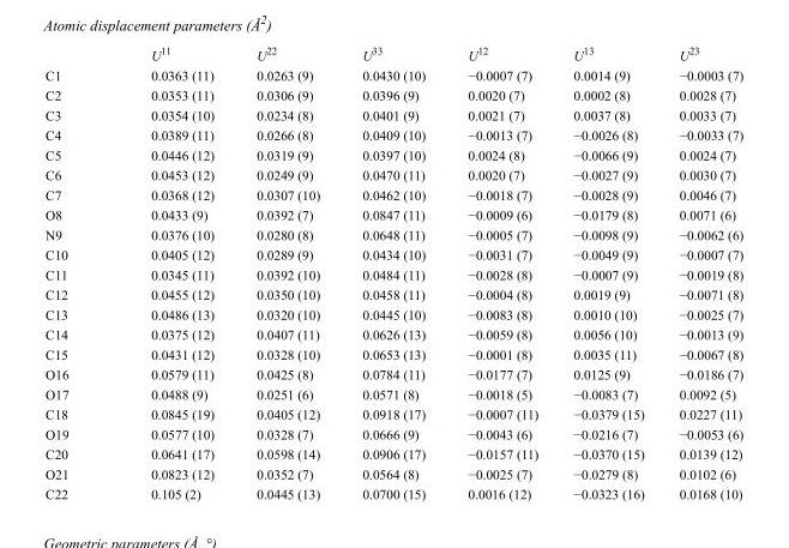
<table><thead><tr><td></td><td>U<sup>11</sup></td><td>U<sup>22</sup></td><td>U<sup>33</sup></td><td>U<sup>12</sup></td><td>U<sup>13</sup></td><td>U<sup>23</sup></td></tr></thead><tbody><tr><td>C1</td><td>0.0363 (11)</td><td>0.0263 (9)</td><td>0.0430 (10)</td><td>−0.0007 (7)</td><td>0.0014 (9)</td><td>−0.0003 (7)</td></tr><tr><td>C2</td><td>0.0353 (11)</td><td>0.0306 (9)</td><td>0.0396 (9)</td><td>0.0020 (7)</td><td>0.0002 (8)</td><td>0.0028 (7)</td></tr><tr><td>C3</td><td>0.0354 (10)</td><td>0.0234 (8)</td><td>0.0401 (9)</td><td>0.0021 (7)</td><td>0.0037 (8)</td><td>0.0033 (7)</td></tr><tr><td>C4</td><td>0.0389 (11)</td><td>0.0266 (8)</td><td>0.0409 (10)</td><td>−0.0013 (7)</td><td>−0.0026 (8)</td><td>−0.0033 (7)</td></tr><tr><td>C5</td><td>0.0446 (12)</td><td>0.0319 (9)</td><td>0.0397 (10)</td><td>0.0024 (8)</td><td>−0.0066 (9)</td><td>0.0024 (7)</td></tr><tr><td>C6</td><td>0.0453 (12)</td><td>0.0249 (9)</td><td>0.0470 (11)</td><td>0.0020 (7)</td><td>−0.0027 (9)</td><td>0.0030 (7)</td></tr><tr><td>C7</td><td>0.0368 (12)</td><td>0.0307 (10)</td><td>0.0462 (10)</td><td>−0.0018 (7)</td><td>−0.0028 (9)</td><td>0.0046 (7)</td></tr><tr><td>O8</td><td>0.0433 (9)</td><td>0.0392 (7)</td><td>0.0847 (11)</td><td>−0.0009 (6)</td><td>−0.0179 (8)</td><td>0.0071 (6)</td></tr><tr><td>N9</td><td>0.0376 (10)</td><td>0.0280 (8)</td><td>0.0648 (11)</td><td>−0.0005 (7)</td><td>−0.0098 (9)</td><td>−0.0062 (6)</td></tr><tr><td>C10</td><td>0.0405 (12)</td><td>0.0289 (9)</td><td>0.0434 (10)</td><td>−0.0031 (7)</td><td>−0.0049 (9)</td><td>−0.0007 (7)</td></tr><tr><td>C11</td><td>0.0345 (11)</td><td>0.0392 (10)</td><td>0.0484 (11)</td><td>−0.0028 (8)</td><td>−0.0007 (9)</td><td>−0.0019 (8)</td></tr><tr><td>C12</td><td>0.0455 (12)</td><td>0.0350 (10)</td><td>0.0458 (11)</td><td>−0.0004 (8)</td><td>0.0019 (9)</td><td>−0.0071 (8)</td></tr><tr><td>C13</td><td>0.0486 (13)</td><td>0.0320 (10)</td><td>0.0445 (10)</td><td>−0.0083 (8)</td><td>0.0010 (10)</td><td>−0.0025 (7)</td></tr><tr><td>C14</td><td>0.0375 (12)</td><td>0.0407 (11)</td><td>0.0626 (13)</td><td>−0.0059 (8)</td><td>0.0056 (10)</td><td>−0.0013 (9)</td></tr><tr><td>C15</td><td>0.0431 (12)</td><td>0.0328 (10)</td><td>0.0653 (13)</td><td>−0.0001 (8)</td><td>0.0035 (11)</td><td>−0.0067 (8)</td></tr><tr><td>O16</td><td>0.0579 (11)</td><td>0.0425 (8)</td><td>0.0784 (11)</td><td>−0.0177 (7)</td><td>0.0125 (9)</td><td>−0.0186 (7)</td></tr><tr><td>O17</td><td>0.0488 (9)</td><td>0.0251 (6)</td><td>0.0571 (8)</td><td>−0.0018 (5)</td><td>−0.0083 (7)</td><td>0.0092 (5)</td></tr><tr><td>C18</td><td>0.0845 (19)</td><td>0.0405 (12)</td><td>0.0918 (17)</td><td>−0.0007 (11)</td><td>−0.0379 (15)</td><td>0.0227 (11)</td></tr><tr><td>O19</td><td>0.0577 (10)</td><td>0.0328 (7)</td><td>0.0666 (9)</td><td>−0.0043 (6)</td><td>−0.0216 (7)</td><td>−0.0053 (6)</td></tr><tr><td>C20</td><td>0.0641 (17)</td><td>0.0598 (14)</td><td>0.0906 (17)</td><td>−0.0157 (11)</td><td>−0.0370 (15)</td><td>0.0139 (12)</td></tr><tr><td>O21</td><td>0.0823 (12)</td><td>0.0352 (7)</td><td>0.0564 (8)</td><td>−0.0025 (7)</td><td>−0.0279 (8)</td><td>0.0102 (6)</td></tr><tr><td>C22</td><td>0.105 (2)</td><td>0.0445 (13)</td><td>0.0700 (15)</td><td>0.0016 (12)</td><td>−0.0323 (16)</td><td>0.0168 (10)</td></tr></tbody></table>